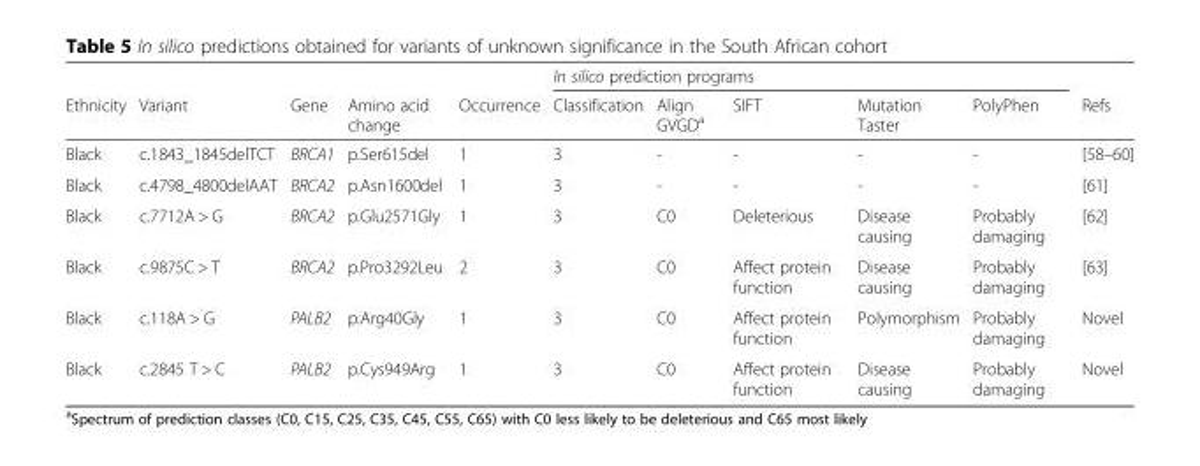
<table><thead><tr><td rowspan="2">Ethnicity</td><td rowspan="2">Variant</td><td rowspan="2">Gene</td><td rowspan="2">Amino acid change</td><td rowspan="2">Occurrence</td><td colspan="5">In silico prediction programs</td><td rowspan="2">Refs</td></tr><tr><td>Classification</td><td>Align GVGD<sup>a</sup></td><td>SIFT</td><td>Mutation Taster</td><td>PolyPhen</td></tr></thead><tbody><tr><td>Black</td><td>c.1843_1845delTCT</td><td>BRCA1</td><td>p.Ser615del</td><td>1</td><td>3</td><td>-</td><td>-</td><td>-</td><td>-</td><td>[58–60]</td></tr><tr><td>Black</td><td>c.4798_4800delAAT</td><td>BRCA2</td><td>p.Asn1600del</td><td>1</td><td>3</td><td>-</td><td>-</td><td>-</td><td>-</td><td>[61]</td></tr><tr><td>Black</td><td>c.7712A &gt; G</td><td>BRCA2</td><td>p.Glu2571Gly</td><td>1</td><td>3</td><td>C0</td><td>Deleterious</td><td>Disease causing</td><td>Probably damaging</td><td>[62]</td></tr><tr><td>Black</td><td>c.9875C &gt; T</td><td>BRCA2</td><td>p.Pro3292Leu</td><td>2</td><td>3</td><td>C0</td><td>Affect protein function</td><td>Disease causing</td><td>Probably damaging</td><td>[63]</td></tr><tr><td>Black</td><td>c.118A &gt; G</td><td>PALB2</td><td>p.Arg40Gly</td><td>1</td><td>3</td><td>C0</td><td>Affect protein function</td><td>Polymorphism</td><td>Probably damaging</td><td>Novel</td></tr><tr><td>Black</td><td>c.2845 T &gt; C</td><td>PALB2</td><td>p.Cys949Arg</td><td>1</td><td>3</td><td>C0</td><td>Affect protein function</td><td>Disease causing</td><td>Probably damaging</td><td>Novel</td></tr></tbody></table>